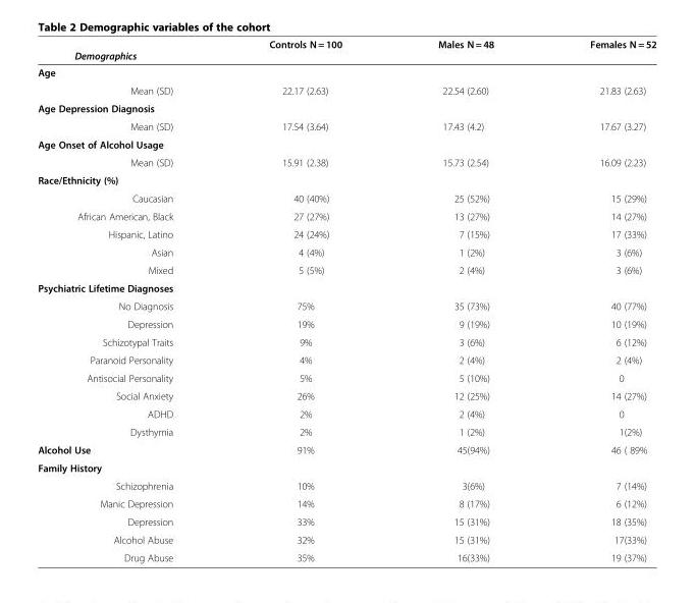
<table><thead><tr><td rowspan="2">Demographics</td><td rowspan="2">Controls N = 100</td><td rowspan="2">Males N = 48</td><td rowspan="2">Females N = 52</td></tr><tr></tr></thead><tbody><tr><td colspan="4">Age</td></tr><tr><td>Mean (SD)</td><td>22.17 (2.63)</td><td>22.54 (2.60)</td><td>21.83 (2.63)</td></tr><tr><td colspan="4">Age Depression Diagnosis</td></tr><tr><td>Mean (SD)</td><td>17.54 (3.64)</td><td>17.43 (4.2)</td><td>17.67 (3.27)</td></tr><tr><td colspan="4">Age Onset of Alcohol Usage</td></tr><tr><td>Mean (SD)</td><td>15.91 (2.38)</td><td>15.73 (2.54)</td><td>16.09 (2.23)</td></tr><tr><td colspan="4">Race/Ethnicity (%)</td></tr><tr><td>Caucasian</td><td>40 (40%)</td><td>25 (52%)</td><td>15 (29%)</td></tr><tr><td>African American, Black</td><td>27 (27%)</td><td>13 (27%)</td><td>14 (27%)</td></tr><tr><td>Hispanic, Latino</td><td>24 (24%)</td><td>7 (15%)</td><td>17 (33%)</td></tr><tr><td>Asian</td><td>4 (4%)</td><td>1 (2%)</td><td>3 (6%)</td></tr><tr><td>Mixed</td><td>5 (5%)</td><td>2 (4%)</td><td>3 (6%)</td></tr><tr><td colspan="4">Psychiatric Lifetime Diagnoses</td></tr><tr><td>No Diagnosis</td><td>75%</td><td>35 (73%)</td><td>40 (77%)</td></tr><tr><td>Depression</td><td>19%</td><td>9 (19%)</td><td>10 (19%)</td></tr><tr><td>Schizotypal Traits</td><td>9%</td><td>3 (6%)</td><td>6 (12%)</td></tr><tr><td>Paranoid Personality</td><td>4%</td><td>2 (4%)</td><td>2 (4%)</td></tr><tr><td>Antisocial Personality</td><td>5%</td><td>5 (10%)</td><td>0</td></tr><tr><td>Social Anxiety</td><td>26%</td><td>12 (25%)</td><td>14 (27%)</td></tr><tr><td>ADHD</td><td>2%</td><td>2 (4%)</td><td>0</td></tr><tr><td>Dysthymia</td><td>2%</td><td>1 (2%)</td><td>1(2%)</td></tr><tr><td>Alcohol Use</td><td>91%</td><td>45(94%)</td><td>46 ( 89%</td></tr><tr><td colspan="4">Family History</td></tr><tr><td>Schizophrenia</td><td>10%</td><td>3(6%)</td><td>7 (14%)</td></tr><tr><td>Manic Depression</td><td>14%</td><td>8 (17%)</td><td>6 (12%)</td></tr><tr><td>Depression</td><td>33%</td><td>15 (31%)</td><td>18 (35%)</td></tr><tr><td>Alcohol Abuse</td><td>32%</td><td>15 (31%)</td><td>17(33%)</td></tr><tr><td>Drug Abuse</td><td>35%</td><td>16(33%)</td><td>19 (37%)</td></tr></tbody></table>